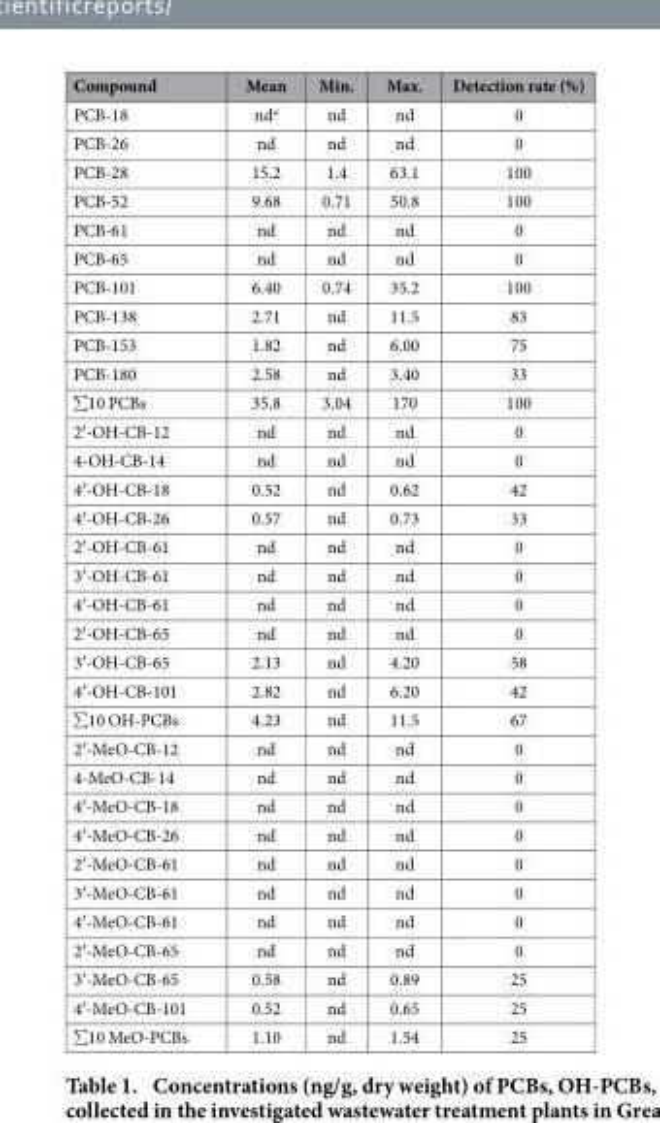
<table><thead><tr><td>Compound</td><td>Mean</td><td>Min.</td><td>Max.</td><td>Detection rate (%)</td></tr></thead><tbody><tr><td>PCB-18</td><td>nd<sup>a</sup></td><td>nd</td><td>nd</td><td>0</td></tr><tr><td>PCB-26</td><td>nd</td><td>nd</td><td>nd</td><td>0</td></tr><tr><td>PCB-28</td><td>15.2</td><td>1.4</td><td>63.1</td><td>100</td></tr><tr><td>PCB-52</td><td>9.68</td><td>0.71</td><td>50.8</td><td>100</td></tr><tr><td>PCB-61</td><td>nd</td><td>nd</td><td>nd</td><td>0</td></tr><tr><td>PCB-65</td><td>nd</td><td>nd</td><td>nd</td><td>0</td></tr><tr><td>PCB-101</td><td>6.40</td><td>0.74</td><td>35.2</td><td>100</td></tr><tr><td>PCB-138</td><td>2.71</td><td>nd</td><td>11.5</td><td>83</td></tr><tr><td>PCB-153</td><td>1.82</td><td>nd</td><td>6.00</td><td>75</td></tr><tr><td>PCB-180</td><td>2.58</td><td>nd</td><td>3.40</td><td>33</td></tr><tr><td>∑ 10 PCBs</td><td>35.8</td><td>3.04</td><td>170</td><td>100</td></tr><tr><td>2′ -OH-CB-12</td><td>nd</td><td>nd</td><td>nd</td><td>0</td></tr><tr><td>4-OH-CB-14</td><td>nd</td><td>nd</td><td>nd</td><td>0</td></tr><tr><td>4′ -OH-CB-18</td><td>0.52</td><td>nd</td><td>0.62</td><td>42</td></tr><tr><td>4′ -OH-CB-26</td><td>0.57</td><td>nd</td><td>0.73</td><td>33</td></tr><tr><td>2′ -OH-CB-61</td><td>nd</td><td>nd</td><td>nd</td><td>0</td></tr><tr><td>3′ -OH-CB-61</td><td>nd</td><td>nd</td><td>nd</td><td>0</td></tr><tr><td>4′ -OH-CB-61</td><td>nd</td><td>nd</td><td>nd</td><td>0</td></tr><tr><td>2′ -OH-CB-65</td><td>nd</td><td>nd</td><td>nd</td><td>0</td></tr><tr><td>3′ -OH-CB-65</td><td>2.13</td><td>nd</td><td>4.20</td><td>58</td></tr><tr><td>4′ -OH-CB-101</td><td>2.82</td><td>nd</td><td>6.20</td><td>42</td></tr><tr><td>∑ 10 OH-PCBs</td><td>4.23</td><td>nd</td><td>11.5</td><td>67</td></tr><tr><td>2′ -MeO-CB-12</td><td>nd</td><td>nd</td><td>nd</td><td>0</td></tr><tr><td>4-MeO-CB-14</td><td>nd</td><td>nd</td><td>nd</td><td>0</td></tr><tr><td>4′ -MeO-CB-18</td><td>nd</td><td>nd</td><td>nd</td><td>0</td></tr><tr><td>4′ -MeO-CB-26</td><td>nd</td><td>nd</td><td>nd</td><td>0</td></tr><tr><td>2′ -MeO-CB-61</td><td>nd</td><td>nd</td><td>nd</td><td>0</td></tr><tr><td>3′ -MeO-CB-61</td><td>nd</td><td>nd</td><td>nd</td><td>0</td></tr><tr><td>4′ -MeO-CB-61</td><td>nd</td><td>nd</td><td>nd</td><td>0</td></tr><tr><td>2′ -MeO-CB-65</td><td>nd</td><td>nd</td><td>nd</td><td>0</td></tr><tr><td>3′ -MeO-CB-65</td><td>0.58</td><td>nd</td><td>0.89</td><td>25</td></tr><tr><td>4′ -MeO-CB-101</td><td>0.52</td><td>nd</td><td>0.65</td><td>25</td></tr><tr><td>∑ 10 MeO-PCBs</td><td>1.10</td><td>nd</td><td>1.54</td><td>25</td></tr></tbody></table>